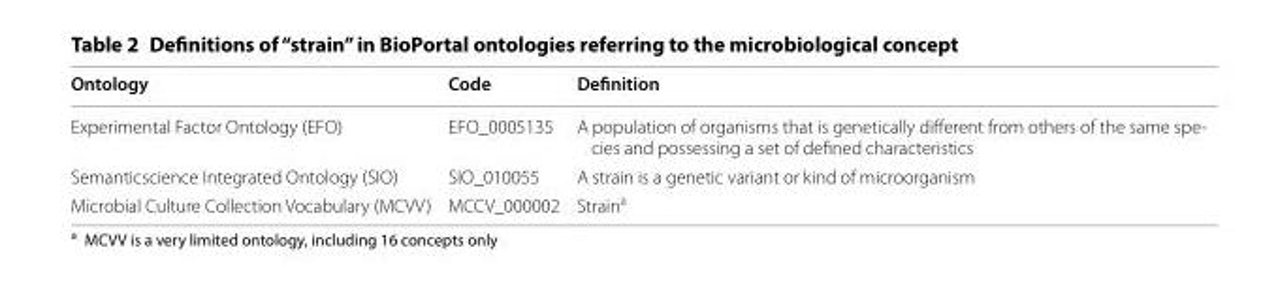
<table><thead><tr><td>Ontology</td><td>Code</td><td>Definition</td></tr></thead><tbody><tr><td>Experimental Factor Ontology (EFO)</td><td>EFO_0005135</td><td>A population of organisms that is genetically different from others of the same spe- cies and possessing a set of defined characteristics</td></tr><tr><td>Semanticscience Integrated Ontology (SIO)</td><td>SIO_010055</td><td>A strain is a genetic variant or kind of microorganism</td></tr><tr><td>Microbial Culture Collection Vocabulary (MCVV)</td><td>MCCV_000002</td><td>Strain<sup>a</sup></td></tr></tbody></table>